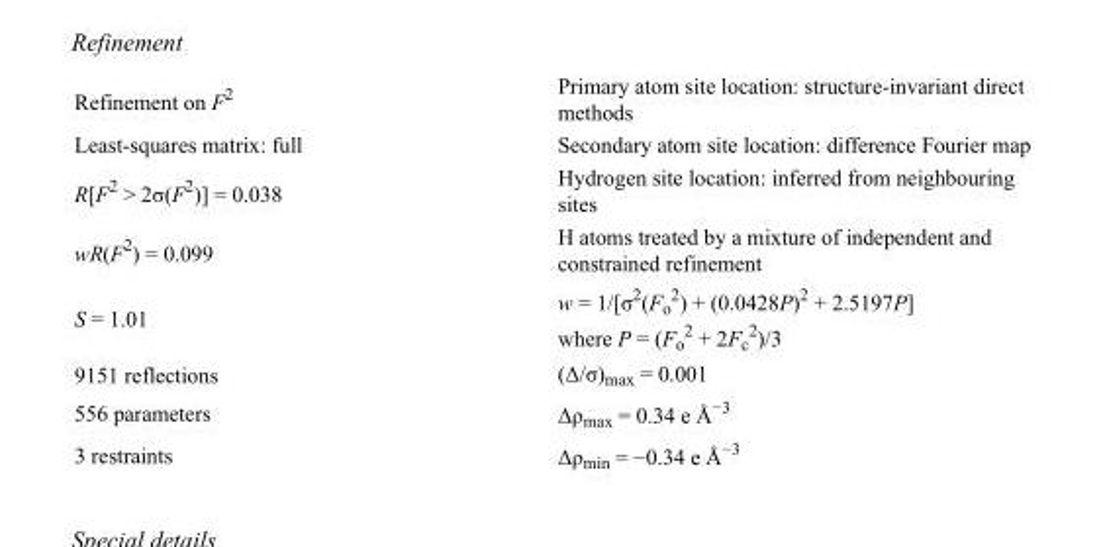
<table><tbody><tr><td>Refinement on F<sup>2</sup></td><td>Primary atom site location: structure-invariant direct methods</td></tr><tr><td>Least-squares matrix: full</td><td>Secondary atom site location: difference Fourier map</td></tr><tr><td>R[F<sup>2</sup> &gt; 2σ(F<sup>2</sup>)] = 0.038</td><td>Hydrogen site location: inferred from neighbouring sites</td></tr><tr><td>wR(F<sup>2</sup>) = 0.099</td><td>H atoms treated by a mixture of independent and constrained refinement</td></tr><tr><td>S = 1.01</td><td>w = 1/[σ<sup>2</sup>(F<sub>o</sub> <sup>2</sup>) + (0.0428P)<sup>2</sup> + 2.5197P] where P = (F<sub>o</sub> <sup>2</sup> + 2F<sub>c</sub> <sup>2</sup>)/3</td></tr><tr><td>9151 reflections</td><td>(Δ/σ)<sub>max</sub> = 0.001</td></tr><tr><td>556 parameters</td><td>Δρ<sub>max</sub> = 0.34 e Å<sup>−3</sup></td></tr><tr><td>3 restraints</td><td>Δρ<sub>min</sub> = −0.34 e Å<sup>−3</sup></td></tr></tbody></table>